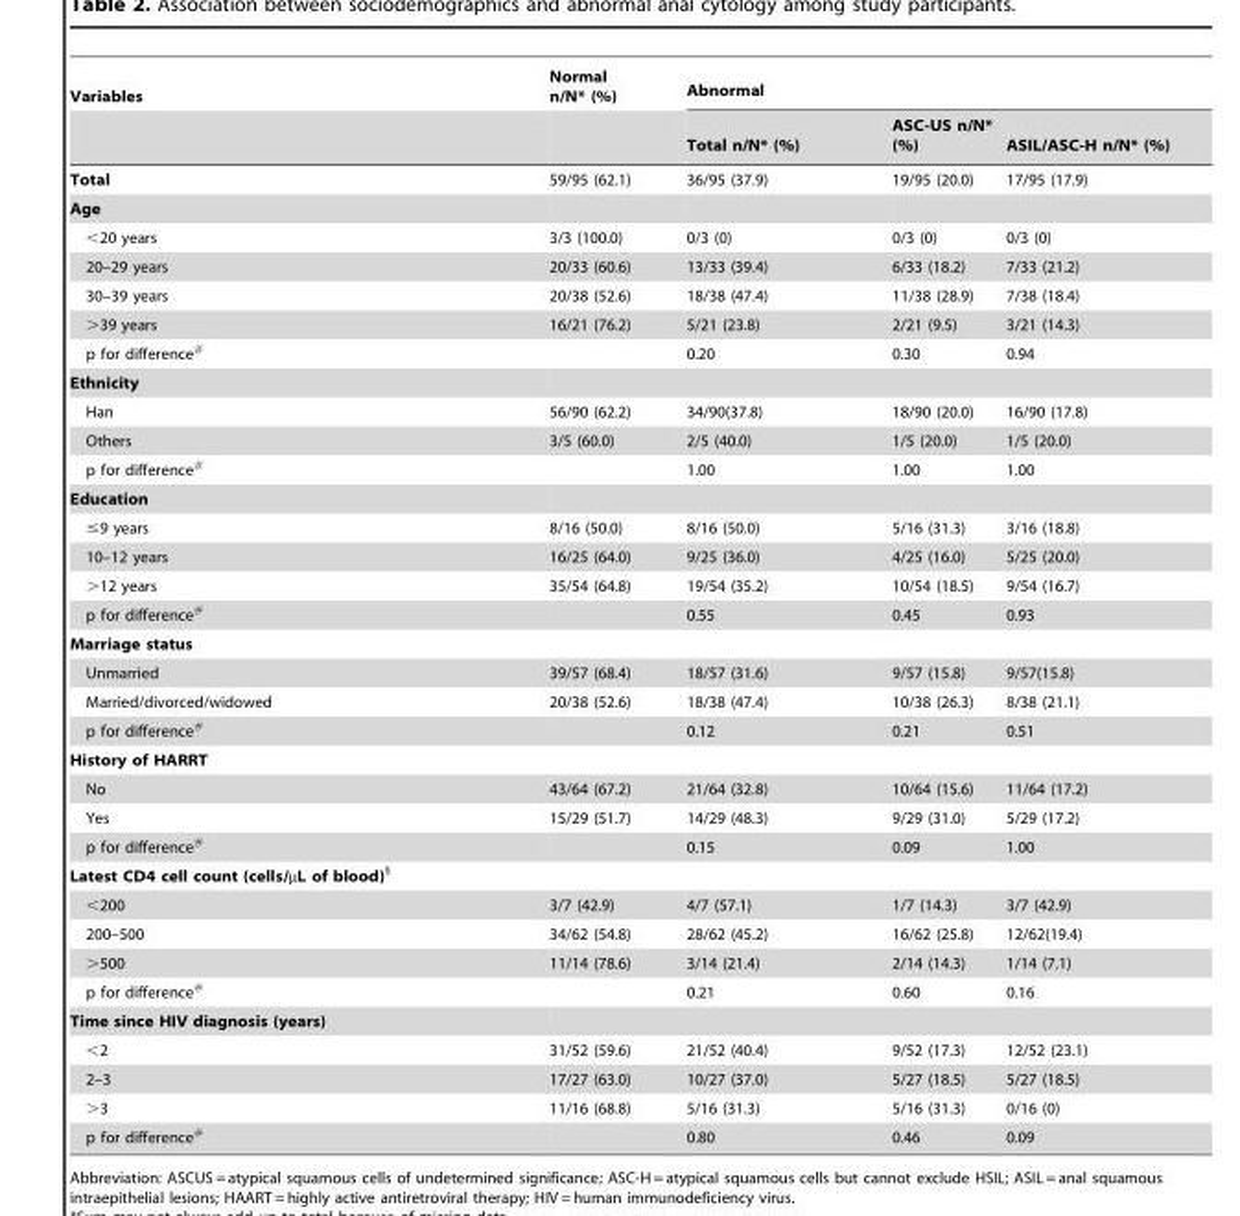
<table><thead><tr><td rowspan="2">Variables</td><td rowspan="2">Normal n/N* (%)</td><td colspan="3">Abnormal</td></tr><tr><td>Total n/N* (%)</td><td>ASC-US n/N* (%)</td><td>ASIL/ASC-H n/N* (%)</td></tr></thead><tbody><tr><td>Total</td><td>59/95 (62.1)</td><td>36/95 (37.9)</td><td>19/95 (20.0)</td><td>17/95 (17.9)</td></tr><tr><td colspan="5">Age</td></tr><tr><td>&lt;20 years</td><td>3/3 (100.0)</td><td>0/3 (0)</td><td>0/3 (0)</td><td>0/3 (0)</td></tr><tr><td>20–29 years</td><td>20/33 (60.6)</td><td>13/33 (39.4)</td><td>6/33 (18.2)</td><td>7/33 (21.2)</td></tr><tr><td>30–39 years</td><td>20/38 (52.6)</td><td>18/38 (47.4)</td><td>11/38 (28.9)</td><td>7/38 (18.4)</td></tr><tr><td>&gt;39 years</td><td>16/21 (76.2)</td><td>5/21 (23.8)</td><td>2/21 (9.5)</td><td>3/21 (14.3)</td></tr><tr><td>p for difference#</td><td></td><td>0.20</td><td>0.30</td><td>0.94</td></tr><tr><td colspan="5">Ethnicity</td></tr><tr><td>Han</td><td>56/90 (62.2)</td><td>34/90(37.8)</td><td>18/90 (20.0)</td><td>16/90 (17.8)</td></tr><tr><td>Others</td><td>3/5 (60.0)</td><td>2/5 (40.0)</td><td>1/5 (20.0)</td><td>1/5 (20.0)</td></tr><tr><td>p for difference#</td><td></td><td>1.00</td><td>1.00</td><td>1.00</td></tr><tr><td colspan="5">Education</td></tr><tr><td>≤9 years</td><td>8/16 (50.0)</td><td>8/16 (50.0)</td><td>5/16 (31.3)</td><td>3/16 (18.8)</td></tr><tr><td>10–12 years</td><td>16/25 (64.0)</td><td>9/25 (36.0)</td><td>4/25 (16.0)</td><td>5/25 (20.0)</td></tr><tr><td>&gt;12 years</td><td>35/54 (64.8)</td><td>19/54 (35.2)</td><td>10/54 (18.5)</td><td>9/54 (16.7)</td></tr><tr><td>p for difference#</td><td></td><td>0.55</td><td>0.45</td><td>0.93</td></tr><tr><td colspan="5">Marriage status</td></tr><tr><td>Unmarried</td><td>39/57 (68.4)</td><td>18/57 (31.6)</td><td>9/57 (15.8)</td><td>9/57(15.8)</td></tr><tr><td>Married/divorced/widowed</td><td>20/38 (52.6)</td><td>18/38 (47.4)</td><td>10/38 (26.3)</td><td>8/38 (21.1)</td></tr><tr><td>p for difference#</td><td></td><td>0.12</td><td>0.21</td><td>0.51</td></tr><tr><td colspan="5">History of HARRT</td></tr><tr><td>No</td><td>43/64 (67.2)</td><td>21/64 (32.8)</td><td>10/64 (15.6)</td><td>11/64 (17.2)</td></tr><tr><td>Yes</td><td>15/29 (51.7)</td><td>14/29 (48.3)</td><td>9/29 (31.0)</td><td>5/29 (17.2)</td></tr><tr><td>p for difference#</td><td></td><td>0.15</td><td>0.09</td><td>1.00</td></tr><tr><td colspan="5">Latest CD4 cell count (cells/µL of blood)§</td></tr><tr><td>&lt;200</td><td>3/7 (42.9)</td><td>4/7 (57.1)</td><td>1/7 (14.3)</td><td>3/7 (42.9)</td></tr><tr><td>200–500</td><td>34/62 (54.8)</td><td>28/62 (45.2)</td><td>16/62 (25.8)</td><td>12/62(19.4)</td></tr><tr><td>&gt;500</td><td>11/14 (78.6)</td><td>3/14 (21.4)</td><td>2/14 (14.3)</td><td>1/14 (7.1)</td></tr><tr><td>p for difference#</td><td></td><td>0.21</td><td>0.60</td><td>0.16</td></tr><tr><td colspan="5">Time since HIV diagnosis (years)</td></tr><tr><td>&lt;2</td><td>31/52 (59.6)</td><td>21/52 (40.4)</td><td>9/52 (17.3)</td><td>12/52 (23.1)</td></tr><tr><td>2–3</td><td>17/27 (63.0)</td><td>10/27 (37.0)</td><td>5/27 (18.5)</td><td>5/27 (18.5)</td></tr><tr><td>&gt;3</td><td>11/16 (68.8)</td><td>5/16 (31.3)</td><td>5/16 (31.3)</td><td>0/16 (0)</td></tr><tr><td>p for difference#</td><td></td><td>0.80</td><td>0.46</td><td>0.09</td></tr></tbody></table>